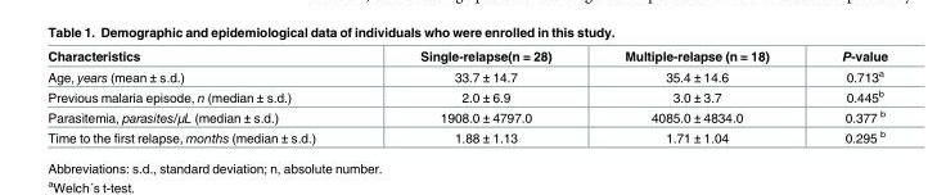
<table><thead><tr><td>Characteristics</td><td>Single-relapse(n = 28)</td><td>Multiple-relapse (n = 18)</td><td>P-value</td></tr></thead><tbody><tr><td>Age, years (mean ± s.d.)</td><td>33.7 ± 14.7</td><td>35.4 ± 14.6</td><td>0.713<sup>a</sup></td></tr><tr><td>Previous malaria episode, n (median ± s.d.)</td><td>2.0 ± 6.9</td><td>3.0 ± 3.7</td><td>0.445<sup>b</sup></td></tr><tr><td>Parasitemia, parasites/μL (median ± s.d.)</td><td>1908.0 ± 4797.0</td><td>4085.0 ± 4834.0</td><td>0.377 <sup>b</sup></td></tr><tr><td>Time to the first relapse, months (median ± s.d.)</td><td>1.88 ± 1.13</td><td>1.71 ± 1.04</td><td>0.295 <sup>b</sup></td></tr></tbody></table>